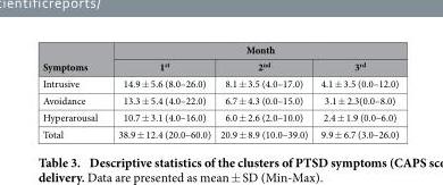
<table><thead><tr><td rowspan="2">Symptoms</td><td colspan="3">Month</td></tr><tr><td>1<sup>st</sup></td><td>2<sup>nd</sup></td><td>3<sup>rd</sup></td></tr></thead><tbody><tr><td>Intrusive</td><td>14.9 ± 5.6 (8.0–26.0)</td><td>8.1 ± 3.5 (4.0–17.0)</td><td>4.1 ± 3.5 (0.0–12.0)</td></tr><tr><td>Avoidance</td><td>13.3 ± 5.4 (4.0–22.0)</td><td>6.7 ± 4.3 (0.0–15.0)</td><td>3.1 ± 2.3(0.0–8.0)</td></tr><tr><td>Hyperarousal</td><td>10.7 ± 3.1 (4.0–16.0)</td><td>6.0 ± 2.6 (2.0–10.0)</td><td>2.4 ± 1.9 (0.0–6.0)</td></tr><tr><td>Total</td><td>38.9 ± 12.4 (20.0–60.0)</td><td>20.9 ± 8.9 (10.0–39.0)</td><td>9.9 ± 6.7 (3.0–26.0)</td></tr></tbody></table>